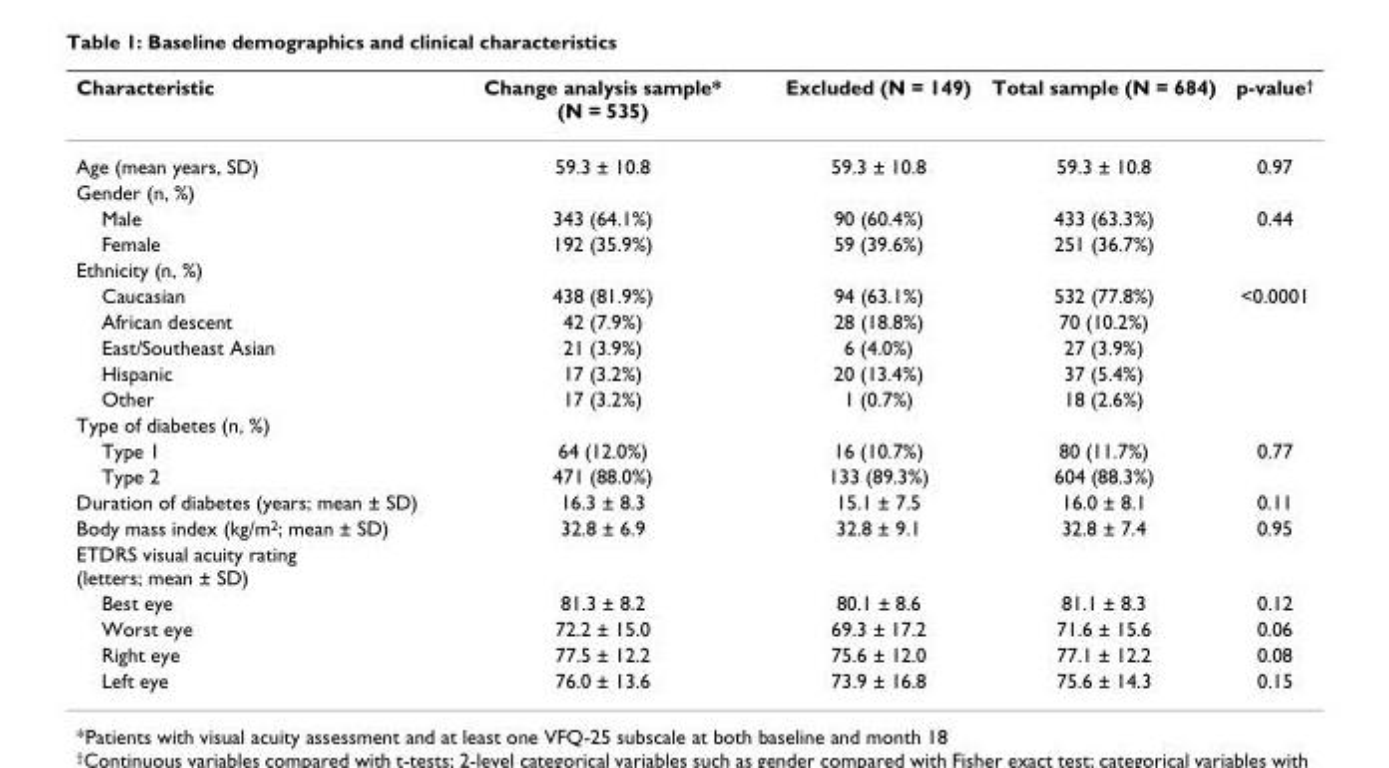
<table><thead><tr><td>Characteristic</td><td>Change analysis sample* (N = 535)</td><td>Excluded (N = 149)</td><td>Total sample (N = 684)</td><td>p-value<sup>†</sup></td></tr></thead><tbody><tr><td>Age (mean years, SD)</td><td>59.3 ± 10.8</td><td>59.3 ± 10.8</td><td>59.3 ± 10.8</td><td>0.97</td></tr><tr><td colspan="5">Gender (n, %)</td></tr><tr><td>Male</td><td>343 (64.1%)</td><td>90 (60.4%)</td><td>433 (63.3%)</td><td>0.44</td></tr><tr><td>Female</td><td>192 (35.9%)</td><td>59 (39.6%)</td><td>251 (36.7%)</td><td></td></tr><tr><td colspan="5">Ethnicity (n, %)</td></tr><tr><td>Caucasian</td><td>438 (81.9%)</td><td>94 (63.1%)</td><td>532 (77.8%)</td><td>&lt;0.0001</td></tr><tr><td>African descent</td><td>42 (7.9%)</td><td>28 (18.8%)</td><td>70 (10.2%)</td><td></td></tr><tr><td>East/Southeast Asian</td><td>21 (3.9%)</td><td>6 (4.0%)</td><td>27 (3.9%)</td><td></td></tr><tr><td>Hispanic</td><td>17 (3.2%)</td><td>20 (13.4%)</td><td>37 (5.4%)</td><td></td></tr><tr><td>Other</td><td>17 (3.2%)</td><td>1 (0.7%)</td><td>18 (2.6%)</td><td></td></tr><tr><td colspan="5">Type of diabetes (n, %)</td></tr><tr><td>Type 1</td><td>64 (12.0%)</td><td>16 (10.7%)</td><td>80 (11.7%)</td><td>0.77</td></tr><tr><td>Type 2</td><td>471 (88.0%)</td><td>133 (89.3%)</td><td>604 (88.3%)</td><td></td></tr><tr><td>Duration of diabetes (years; mean ± SD)</td><td>16.3 ± 8.3</td><td>15.1 ± 7.5</td><td>16.0 ± 8.1</td><td>0.11</td></tr><tr><td>Body mass index (kg/m<sup>2</sup>; mean ± SD)</td><td>32.8 ± 6.9</td><td>32.8 ± 9.1</td><td>32.8 ± 7.4</td><td>0.95</td></tr><tr><td colspan="5">ETDRS visual acuity rating (letters; mean ± SD)</td></tr><tr><td>Best eye</td><td>81.3 ± 8.2</td><td>80.1 ± 8.6</td><td>81.1 ± 8.3</td><td>0.12</td></tr><tr><td>Worst eye</td><td>72.2 ± 15.0</td><td>69.3 ± 17.2</td><td>71.6 ± 15.6</td><td>0.06</td></tr><tr><td>Right eye</td><td>77.5 ± 12.2</td><td>75.6 ± 12.0</td><td>77.1 ± 12.2</td><td>0.08</td></tr><tr><td>Left eye</td><td>76.0 ± 13.6</td><td>73.9 ± 16.8</td><td>75.6 ± 14.3</td><td>0.15</td></tr></tbody></table>